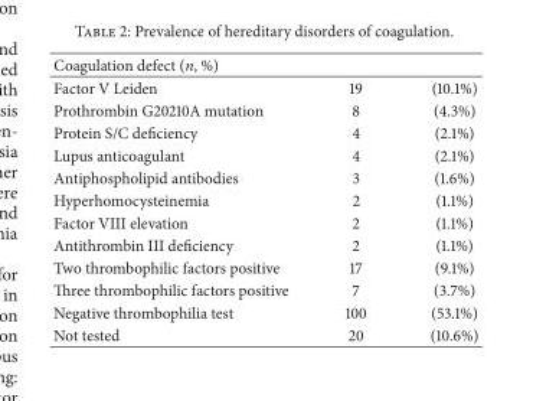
<table><thead><tr><td>Coagulation defect (n, %)</td><td></td><td></td></tr></thead><tbody><tr><td>Factor V Leiden</td><td>19</td><td>(10.1%)</td></tr><tr><td>Prothrombin G20210A mutation</td><td>8</td><td>(4.3%)</td></tr><tr><td>Protein S/C deficiency</td><td>4</td><td>(2.1%)</td></tr><tr><td>Lupus anticoagulant</td><td>4</td><td>(2.1%)</td></tr><tr><td>Antiphospholipid antibodies</td><td>3</td><td>(1.6%)</td></tr><tr><td>Hyperhomocysteinemia</td><td>2</td><td>(1.1%)</td></tr><tr><td>Factor VIII elevation</td><td>2</td><td>(1.1%)</td></tr><tr><td>Antithrombin III deficiency</td><td>2</td><td>(1.1%)</td></tr><tr><td>Two thrombophilic factors positive</td><td>17</td><td>(9.1%)</td></tr><tr><td>Three thrombophilic factors positive</td><td>7</td><td>(3.7%)</td></tr><tr><td>Negative thrombophilia test</td><td>100</td><td>(53.1%)</td></tr><tr><td>Not tested</td><td>20</td><td>(10.6%)</td></tr></tbody></table>